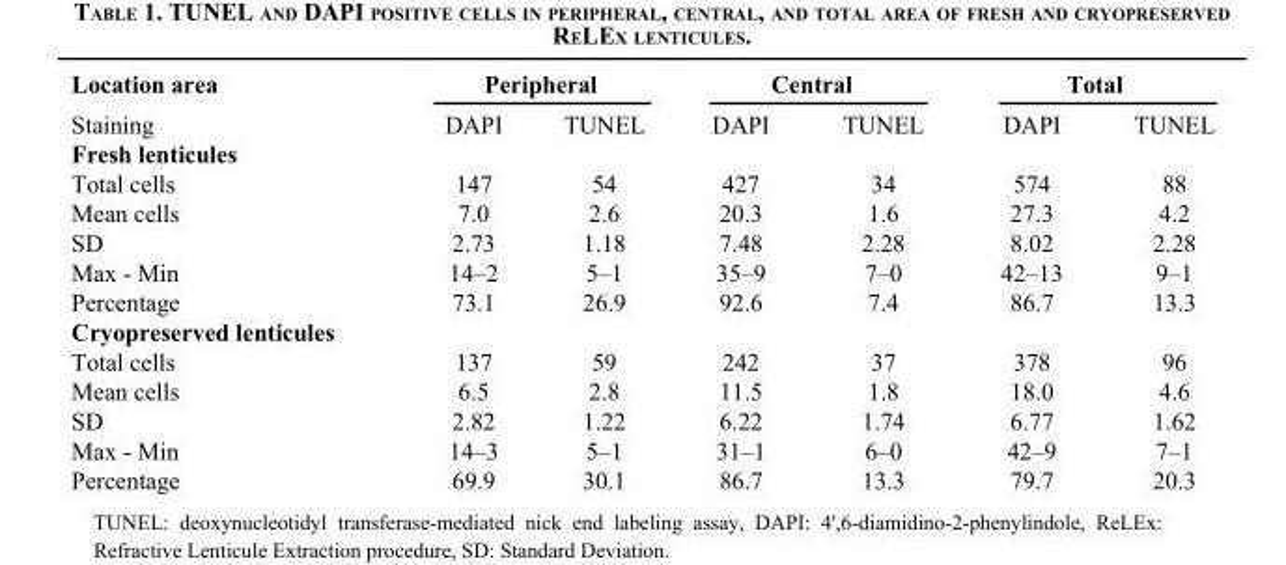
<table><thead><tr><td rowspan="2">Location area Staining</td><td colspan="2">Peripheral</td><td colspan="2">Central</td><td colspan="2">Total</td></tr><tr><td>DAPI</td><td>TUNEL</td><td>DAPI</td><td>TUNEL</td><td>DAPI</td><td>TUNEL</td></tr></thead><tbody><tr><td colspan="7">Fresh lenticules</td></tr><tr><td>Total cells</td><td>147</td><td>54</td><td>427</td><td>34</td><td>574</td><td>88</td></tr><tr><td>Mean cells</td><td>7.0</td><td>2.6</td><td>20.3</td><td>1.6</td><td>27.3</td><td>4.2</td></tr><tr><td>SD</td><td>2.73</td><td>1.18</td><td>7.48</td><td>2.28</td><td>8.02</td><td>2.28</td></tr><tr><td>Max - Min</td><td>14–2</td><td>5–1</td><td>35–9</td><td>7–0</td><td>42–13</td><td>9–1</td></tr><tr><td>Percentage</td><td>73.1</td><td>26.9</td><td>92.6</td><td>7.4</td><td>86.7</td><td>13.3</td></tr><tr><td colspan="7">Cryopreserved lenticules</td></tr><tr><td>Total cells</td><td>137</td><td>59</td><td>242</td><td>37</td><td>378</td><td>96</td></tr><tr><td>Mean cells</td><td>6.5</td><td>2.8</td><td>11.5</td><td>1.8</td><td>18.0</td><td>4.6</td></tr><tr><td>SD</td><td>2.82</td><td>1.22</td><td>6.22</td><td>1.74</td><td>6.77</td><td>1.62</td></tr><tr><td>Max - Min</td><td>14–3</td><td>5–1</td><td>31–1</td><td>6–0</td><td>42–9</td><td>7–1</td></tr><tr><td>Percentage</td><td>69.9</td><td>30.1</td><td>86.7</td><td>13.3</td><td>79.7</td><td>20.3</td></tr></tbody></table>